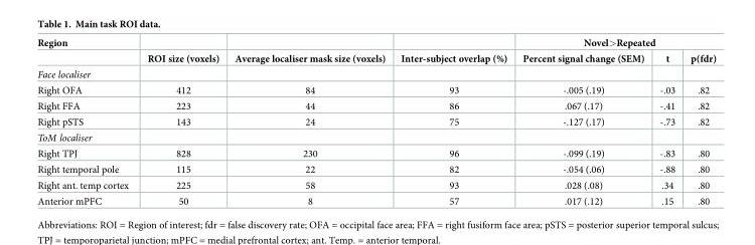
<table><thead><tr><td rowspan="2">Region</td><td rowspan="2">ROI size (voxels)</td><td rowspan="2">Average localiser mask size (voxels)</td><td rowspan="2">Inter-subject overlap (%)</td><td colspan="3">Novel&gt;Repeated</td></tr><tr><td>Percent signal change (SEM)</td><td>t</td><td>p(fdr)</td></tr></thead><tbody><tr><td colspan="7">Face localiser</td></tr><tr><td>Right OFA</td><td>412</td><td>84</td><td>93</td><td>-.005 (.19)</td><td>-.03</td><td>.82</td></tr><tr><td>Right FFA</td><td>223</td><td>44</td><td>86</td><td>.067 (.17)</td><td>-.41</td><td>.82</td></tr><tr><td>Right pSTS</td><td>143</td><td>24</td><td>75</td><td>-.127 (.17)</td><td>-.73</td><td>.82</td></tr><tr><td colspan="7">ToM localiser</td></tr><tr><td>Right TPJ</td><td>828</td><td>230</td><td>96</td><td>-.099 (.19)</td><td>-.83</td><td>.80</td></tr><tr><td>Right temporal pole</td><td>115</td><td>22</td><td>82</td><td>-.054 (.06)</td><td>-.88</td><td>.80</td></tr><tr><td>Right ant. temp cortex</td><td>225</td><td>58</td><td>93</td><td>.028 (.08)</td><td>.34</td><td>.80</td></tr><tr><td>Anterior mPFC</td><td>50</td><td>8</td><td>57</td><td>.017 (.12)</td><td>.15</td><td>.80</td></tr></tbody></table>